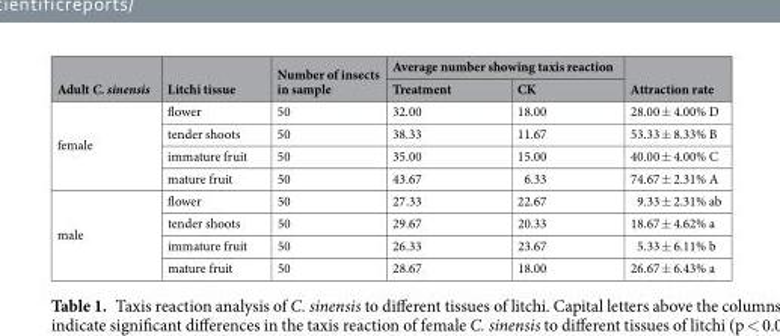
<table><thead><tr><td rowspan="2">Adult C. sinensis</td><td rowspan="2">Litchi tissue</td><td rowspan="2">Number of insects in sample</td><td colspan="2">Average number showing taxis reaction</td><td rowspan="2">Attraction rate</td></tr><tr><td>Treatment</td><td>CK</td></tr></thead><tbody><tr><td rowspan="4">female</td><td>flower</td><td>50</td><td>32.00</td><td>18.00</td><td>28.00 ± 4.00% D</td></tr><tr><td>tender shoots</td><td>50</td><td>38.33</td><td>11.67</td><td>53.33 ± 8.33% B</td></tr><tr><td>immature fruit</td><td>50</td><td>35.00</td><td>15.00</td><td>40.00 ± 4.00% C</td></tr><tr><td>mature fruit</td><td>50</td><td>43.67</td><td>6.33</td><td>74.67 ± 2.31% A</td></tr><tr><td rowspan="4">male</td><td>flower</td><td>50</td><td>27.33</td><td>22.67</td><td>9.33 ± 2.31% ab</td></tr><tr><td>tender shoots</td><td>50</td><td>29.67</td><td>20.33</td><td>18.67 ± 4.62% a</td></tr><tr><td>immature fruit</td><td>50</td><td>26.33</td><td>23.67</td><td>5.33 ± 6.11% b</td></tr><tr><td>mature fruit</td><td>50</td><td>28.67</td><td>18.00</td><td>26.67 ± 6.43% a</td></tr></tbody></table>